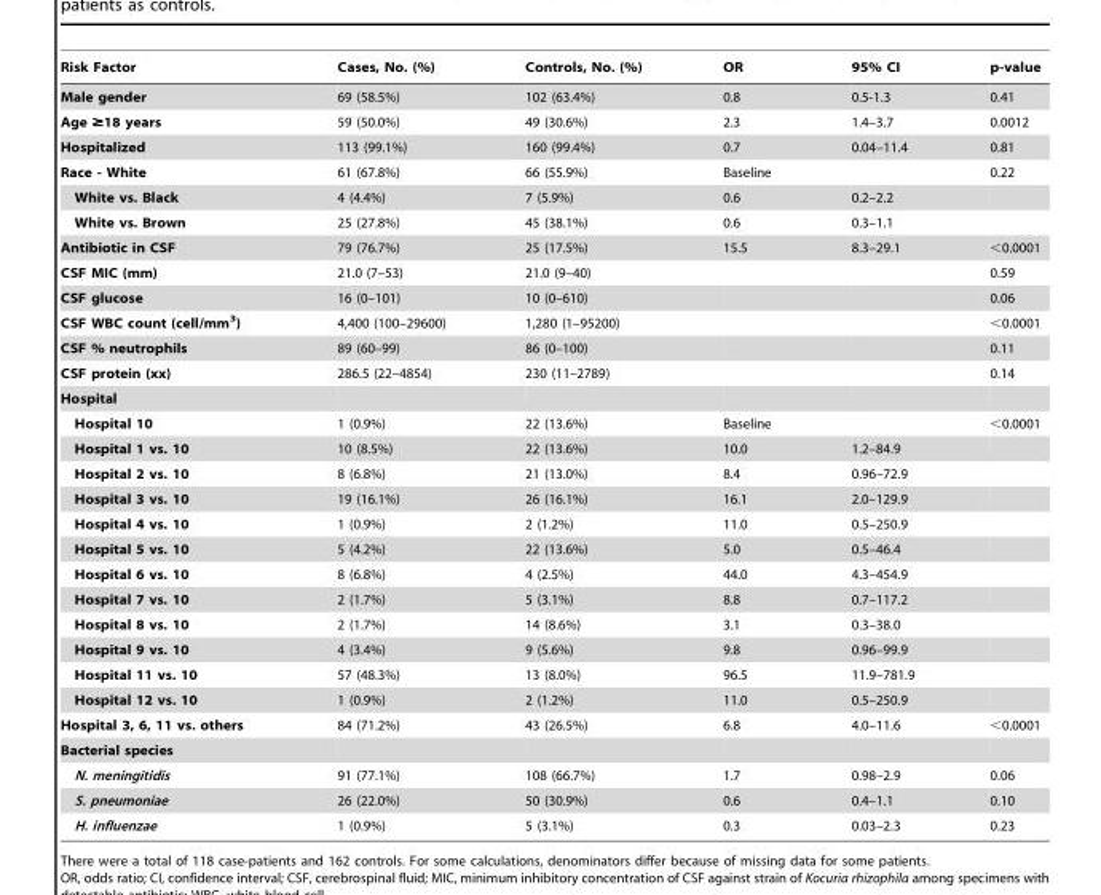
<table><thead><tr><td>Risk Factor</td><td>Cases, No. (%)</td><td>Controls, No. (%)</td><td>OR</td><td>95% CI</td><td>p-value</td></tr></thead><tbody><tr><td>Male gender</td><td>69 (58.5%)</td><td>102 (63.4%)</td><td>0.8</td><td>0.5-1.3</td><td>0.41</td></tr><tr><td>Age ≥18 years</td><td>59 (50.0%)</td><td>49 (30.6%)</td><td>2.3</td><td>1.4–3.7</td><td>0.0012</td></tr><tr><td>Hospitalized</td><td>113 (99.1%)</td><td>160 (99.4%)</td><td>0.7</td><td>0.04–11.4</td><td>0.81</td></tr><tr><td>Race - White</td><td>61 (67.8%)</td><td>66 (55.9%)</td><td>Baseline</td><td></td><td>0.22</td></tr><tr><td>White vs. Black</td><td>4 (4.4%)</td><td>7 (5.9%)</td><td>0.6</td><td>0.2–2.2</td><td></td></tr><tr><td>White vs. Brown</td><td>25 (27.8%)</td><td>45 (38.1%)</td><td>0.6</td><td>0.3–1.1</td><td></td></tr><tr><td>Antibiotic in CSF</td><td>79 (76.7%)</td><td>25 (17.5%)</td><td>15.5</td><td>8.3–29.1</td><td>&lt;0.0001</td></tr><tr><td>CSF MIC (mm)</td><td>21.0 (7–53)</td><td>21.0 (9–40)</td><td></td><td></td><td>0.59</td></tr><tr><td>CSF glucose</td><td>16 (0–101)</td><td>10 (0–610)</td><td></td><td></td><td>0.06</td></tr><tr><td>CSF WBC count (cell/mm<sup>3</sup>)</td><td>4,400 (100–29600)</td><td>1,280 (1–95200)</td><td></td><td></td><td>&lt;0.0001</td></tr><tr><td>CSF % neutrophils</td><td>89 (60–99)</td><td>86 (0–100)</td><td></td><td></td><td>0.11</td></tr><tr><td>CSF protein (xx)</td><td>286.5 (22–4854)</td><td>230 (11–2789)</td><td></td><td></td><td>0.14</td></tr><tr><td colspan="6">Hospital</td></tr><tr><td>Hospital 10</td><td>1 (0.9%)</td><td>22 (13.6%)</td><td>Baseline</td><td></td><td>&lt;0.0001</td></tr><tr><td>Hospital 1 vs. 10</td><td>10 (8.5%)</td><td>22 (13.6%)</td><td>10.0</td><td>1.2–84.9</td><td></td></tr><tr><td>Hospital 2 vs. 10</td><td>8 (6.8%)</td><td>21 (13.0%)</td><td>8.4</td><td>0.96–72.9</td><td></td></tr><tr><td>Hospital 3 vs. 10</td><td>19 (16.1%)</td><td>26 (16.1%)</td><td>16.1</td><td>2.0–129.9</td><td></td></tr><tr><td>Hospital 4 vs. 10</td><td>1 (0.9%)</td><td>2 (1.2%)</td><td>11.0</td><td>0.5–250.9</td><td></td></tr><tr><td>Hospital 5 vs. 10</td><td>5 (4.2%)</td><td>22 (13.6%)</td><td>5.0</td><td>0.5–46.4</td><td></td></tr><tr><td>Hospital 6 vs. 10</td><td>8 (6.8%)</td><td>4 (2.5%)</td><td>44.0</td><td>4.3–454.9</td><td></td></tr><tr><td>Hospital 7 vs. 10</td><td>2 (1.7%)</td><td>5 (3.1%)</td><td>8.8</td><td>0.7–117.2</td><td></td></tr><tr><td>Hospital 8 vs. 10</td><td>2 (1.7%)</td><td>14 (8.6%)</td><td>3.1</td><td>0.3–38.0</td><td></td></tr><tr><td>Hospital 9 vs. 10</td><td>4 (3.4%)</td><td>9 (5.6%)</td><td>9.8</td><td>0.96–99.9</td><td></td></tr><tr><td>Hospital 11 vs. 10</td><td>57 (48.3%)</td><td>13 (8.0%)</td><td>96.5</td><td>11.9–781.9</td><td></td></tr><tr><td>Hospital 12 vs. 10</td><td>1 (0.9%)</td><td>2 (1.2%)</td><td>11.0</td><td>0.5–250.9</td><td></td></tr><tr><td>Hospital 3, 6, 11 vs. others</td><td>84 (71.2%)</td><td>43 (26.5%)</td><td>6.8</td><td>4.0–11.6</td><td>&lt;0.0001</td></tr><tr><td colspan="6">Bacterial species</td></tr><tr><td>N. meningitidis</td><td>91 (77.1%)</td><td>108 (66.7%)</td><td>1.7</td><td>0.98–2.9</td><td>0.06</td></tr><tr><td>S. pneumoniae</td><td>26 (22.0%)</td><td>50 (30.9%)</td><td>0.6</td><td>0.4–1.1</td><td>0.10</td></tr><tr><td>H. influenzae</td><td>1 (0.9%)</td><td>5 (3.1%)</td><td>0.3</td><td>0.03–2.3</td><td>0.23</td></tr></tbody></table>